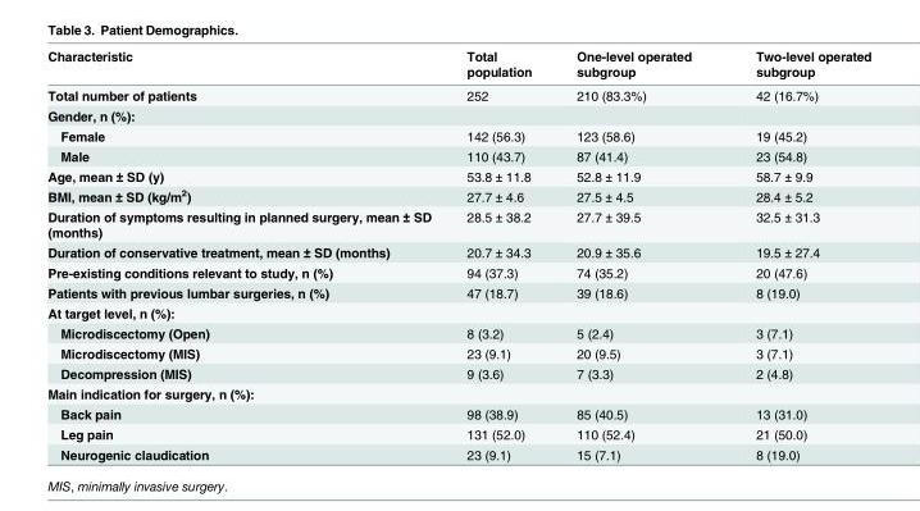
<table><thead><tr><td>Characteristic</td><td>Total population</td><td>One-level operated subgroup</td><td>Two-level operated subgroup</td></tr></thead><tbody><tr><td>Total number of patients</td><td>252</td><td>210 (83.3%)</td><td>42 (16.7%)</td></tr><tr><td colspan="4">Gender, n (%):</td></tr><tr><td>Female</td><td>142 (56.3)</td><td>123 (58.6)</td><td>19 (45.2)</td></tr><tr><td>Male</td><td>110 (43.7)</td><td>87 (41.4)</td><td>23 (54.8)</td></tr><tr><td>Age, mean ± SD (y)</td><td>53.8 ± 11.8</td><td>52.8 ± 11.9</td><td>58.7 ± 9.9</td></tr><tr><td>BMI, mean ± SD (kg/m<sup>2</sup>)</td><td>27.7 ± 4.6</td><td>27.5 ± 4.5</td><td>28.4 ± 5.2</td></tr><tr><td>Duration of symptoms resulting in planned surgery, mean ± SD (months)</td><td>28.5 ± 38.2</td><td>27.7 ± 39.5</td><td>32.5 ± 31.3</td></tr><tr><td>Duration of conservative treatment, mean ± SD (months)</td><td>20.7 ± 34.3</td><td>20.9 ± 35.6</td><td>19.5 ± 27.4</td></tr><tr><td>Pre-existing conditions relevant to study, n (%)</td><td>94 (37.3)</td><td>74 (35.2)</td><td>20 (47.6)</td></tr><tr><td>Patients with previous lumbar surgeries, n (%)</td><td>47 (18.7)</td><td>39 (18.6)</td><td>8 (19.0)</td></tr><tr><td colspan="4">At target level, n (%):</td></tr><tr><td>Microdiscectomy (Open)</td><td>8 (3.2)</td><td>5 (2.4)</td><td>3 (7.1)</td></tr><tr><td>Microdiscectomy (MIS)</td><td>23 (9.1)</td><td>20 (9.5)</td><td>3 (7.1)</td></tr><tr><td>Decompression (MIS)</td><td>9 (3.6)</td><td>7 (3.3)</td><td>2 (4.8)</td></tr><tr><td colspan="4">Main indication for surgery, n (%):</td></tr><tr><td>Back pain</td><td>98 (38.9)</td><td>85 (40.5)</td><td>13 (31.0)</td></tr><tr><td>Leg pain</td><td>131 (52.0)</td><td>110 (52.4)</td><td>21 (50.0)</td></tr><tr><td>Neurogenic claudication</td><td>23 (9.1)</td><td>15 (7.1)</td><td>8 (19.0)</td></tr></tbody></table>